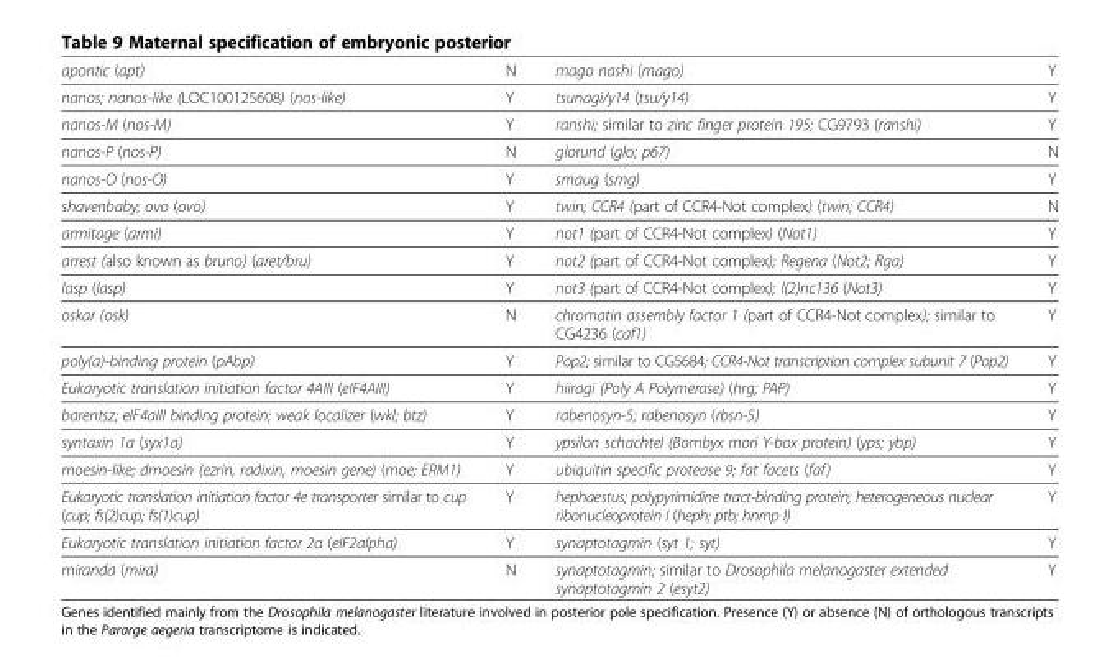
<table><tbody><tr><td>apontic (apt)</td><td>N</td><td>mago nashi (mago)</td><td>Y</td></tr><tr><td>nanos; nanos-like (LOC100125608) (nos-like)</td><td>Y</td><td>tsunagi/y14 (tsu/y14)</td><td>Y</td></tr><tr><td>nanos-M (nos-M)</td><td>Y</td><td>ranshi; similar to zinc finger protein 195; CG9793 (ranshi)</td><td>Y</td></tr><tr><td>nanos-P (nos-P)</td><td>N</td><td>glorund (glo; p67)</td><td>N</td></tr><tr><td>nanos-O (nos-O)</td><td>Y</td><td>smaug (smg)</td><td>Y</td></tr><tr><td>shavenbaby; ovo (ovo)</td><td>Y</td><td>twin; CCR4 (part of CCR4-Not complex) (twin; CCR4)</td><td>N</td></tr><tr><td>armitage (armi)</td><td>Y</td><td>not1 (part of CCR4-Not complex) (Not1)</td><td>Y</td></tr><tr><td>arrest (also known as bruno) (aret/bru)</td><td>Y</td><td>not2 (part of CCR4-Not complex); Regena (Not2; Rga)</td><td>Y</td></tr><tr><td>lasp (lasp)</td><td>Y</td><td>not3 (part of CCR4-Not complex); l(2)nc136 (Not3)</td><td>Y</td></tr><tr><td>oskar (osk)</td><td>N</td><td>chromatin assembly factor 1 (part of CCR4-Not complex); similar to CG4236 (caf1)</td><td>Y</td></tr><tr><td>poly(a)-binding protein (pAbp)</td><td>Y</td><td>Pop2; similar to CG5684; CCR4-Not transcription complex subunit 7 (Pop2)</td><td>Y</td></tr><tr><td>Eukaryotic translation initiation factor 4AIII (eIF4AIII)</td><td>Y</td><td>hiiragi (Poly A Polymerase) (hrg; PAP)</td><td>Y</td></tr><tr><td>barentsz; eIF4aIII binding protein; weak localizer (wkl; btz)</td><td>Y</td><td>rabenosyn-5; rabenosyn (rbsn-5)</td><td>Y</td></tr><tr><td>syntaxin 1a (syx1a)</td><td>Y</td><td>ypsilon schachtel (Bombyx mori Y-box protein) (yps; ybp)</td><td>Y</td></tr><tr><td>moesin-like; dmoesin (ezrin, radixin, moesin gene) (moe; ERM1)</td><td>Y</td><td>ubiquitin specific protease 9; fat facets (faf)</td><td>Y</td></tr><tr><td>Eukaryotic translation initiation factor 4e transporter similar to cup (cup; fs(2)cup; fs(1)cup)</td><td>Y</td><td>hephaestus; polypyrimidine tract-binding protein; heterogeneous nuclear ribonucleoprotein I (heph; ptb; hnrnp I)</td><td>Y</td></tr><tr><td>Eukaryotic translation initiation factor 2α (eIF2alpha)</td><td>Y</td><td>synaptotagmin (syt 1; syt)</td><td>Y</td></tr><tr><td>miranda (mira)</td><td>N</td><td>synaptotagmin; similar to Drosophila melanogaster extended synaptotagmin 2 (esyt2)</td><td>Y</td></tr></tbody></table>